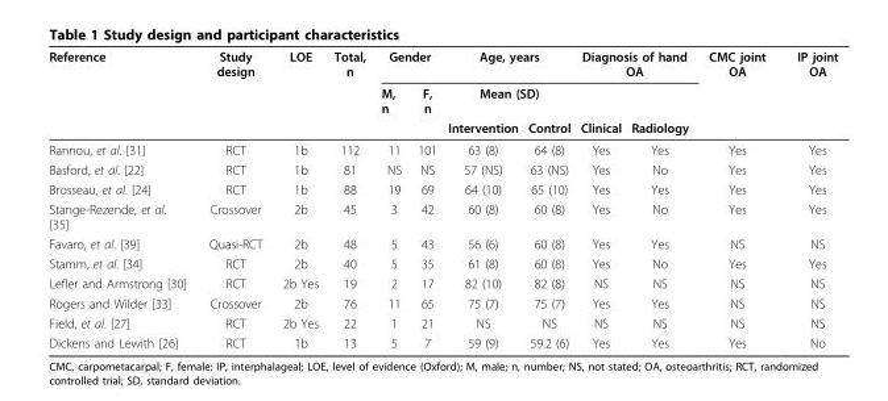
<table><thead><tr><td rowspan="3">Reference</td><td rowspan="3">Study design</td><td rowspan="3">LOE</td><td rowspan="3">Total, n</td><td colspan="2">Gender</td><td rowspan="2" colspan="2">Age, years Mean (SD)</td><td colspan="2">Diagnosis of hand OA</td><td rowspan="3">CMC joint OA</td><td rowspan="3">IP joint OA</td></tr><tr><td rowspan="2">M, n</td><td rowspan="2">F, n</td><td rowspan="2">Clinical</td><td rowspan="2">Radiology</td></tr><tr><td>Intervention</td><td>Control</td></tr></thead><tbody><tr><td>Rannou, et al. [31]</td><td>RCT</td><td>1b</td><td>112</td><td>11</td><td>101</td><td>63 (8)</td><td>64 (8)</td><td>Yes</td><td>Yes</td><td>Yes</td><td>Yes</td></tr><tr><td>Basford, et al. [22]</td><td>RCT</td><td>1b</td><td>81</td><td>NS</td><td>NS</td><td>57 (NS)</td><td>63 (NS)</td><td>Yes</td><td>No</td><td>Yes</td><td>Yes</td></tr><tr><td>Brosseau, et al. [24]</td><td>RCT</td><td>1b</td><td>88</td><td>19</td><td>69</td><td>64 (10)</td><td>65 (10)</td><td>Yes</td><td>Yes</td><td>Yes</td><td>Yes</td></tr><tr><td>Stange-Rezende, et al. [35]</td><td>Crossover</td><td>2b</td><td>45</td><td>3</td><td>42</td><td>60 (8)</td><td>60 (8)</td><td>Yes</td><td>No</td><td>Yes</td><td>Yes</td></tr><tr><td>Favaro, et al. [39]</td><td>Quasi-RCT</td><td>2b</td><td>48</td><td>5</td><td>43</td><td>56 (6)</td><td>60 (8)</td><td>Yes</td><td>Yes</td><td>NS</td><td>NS</td></tr><tr><td>Stamm, et al. [34]</td><td>RCT</td><td>2b</td><td>40</td><td>5</td><td>35</td><td>61 (8)</td><td>60 (8)</td><td>Yes</td><td>No</td><td>Yes</td><td>Yes</td></tr><tr><td>Lefler and Armstrong [30]</td><td>RCT</td><td>2b Yes</td><td>19</td><td>2</td><td>17</td><td>82 (10)</td><td>82 (8)</td><td>NS</td><td>NS</td><td>NS</td><td>NS</td></tr><tr><td>Rogers and Wilder [33]</td><td>Crossover</td><td>2b</td><td>76</td><td>11</td><td>65</td><td>75 (7)</td><td>75 (7)</td><td>Yes</td><td>Yes</td><td>NS</td><td>NS</td></tr><tr><td>Field, et al. [27]</td><td>RCT</td><td>2b Yes</td><td>22</td><td>1</td><td>21</td><td>NS</td><td>NS</td><td>NS</td><td>NS</td><td>NS</td><td>NS</td></tr><tr><td>Dickens and Lewith [26]</td><td>RCT</td><td>1b</td><td>13</td><td>5</td><td>7</td><td>59 (9)</td><td>59.2 (6)</td><td>Yes</td><td>Yes</td><td>Yes</td><td>No</td></tr></tbody></table>